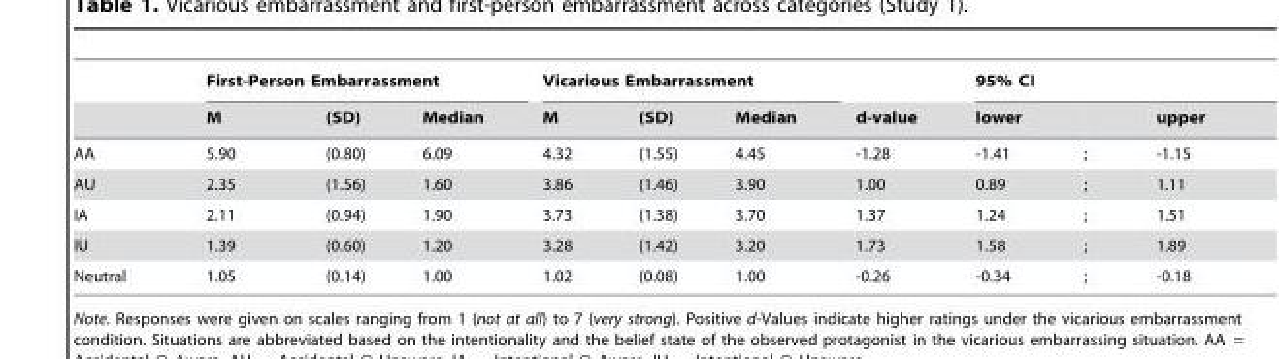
<table><thead><tr><td rowspan="2"></td><td colspan="3">First-Person Embarrassment</td><td colspan="3">Vicarious Embarrassment</td><td rowspan="2">d-value</td><td colspan="3">95% CI</td></tr><tr><td>M</td><td>(SD)</td><td>Median</td><td>M</td><td>(SD)</td><td>Median</td><td>lower</td><td></td><td>upper</td></tr></thead><tbody><tr><td>AA</td><td>5.90</td><td>(0.80)</td><td>6.09</td><td>4.32</td><td>(1.55)</td><td>4.45</td><td>-1.28</td><td>-1.41</td><td>;</td><td>-1.15</td></tr><tr><td>AU</td><td>2.35</td><td>(1.56)</td><td>1.60</td><td>3.86</td><td>(1.46)</td><td>3.90</td><td>1.00</td><td>0.89</td><td>;</td><td>1.11</td></tr><tr><td>IA</td><td>2.11</td><td>(0.94)</td><td>1.90</td><td>3.73</td><td>(1.38)</td><td>3.70</td><td>1.37</td><td>1.24</td><td>;</td><td>1.51</td></tr><tr><td>IU</td><td>1.39</td><td>(0.60)</td><td>1.20</td><td>3.28</td><td>(1.42)</td><td>3.20</td><td>1.73</td><td>1.58</td><td>;</td><td>1.89</td></tr><tr><td>Neutral</td><td>1.05</td><td>(0.14)</td><td>1.00</td><td>1.02</td><td>(0.08)</td><td>1.00</td><td>-0.26</td><td>-0.34</td><td>;</td><td>-0.18</td></tr></tbody></table>